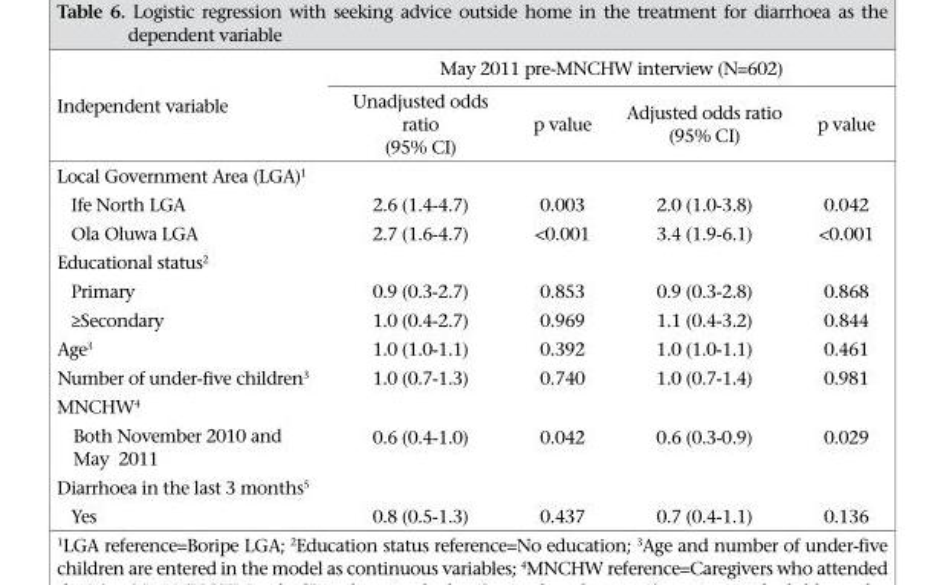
<table><thead><tr><td rowspan="2">Independent variable</td><td colspan="4">May 2011 pre-MNCHW interview (N=602)</td></tr><tr><td>Unadjusted odds ratio (95% CI)</td><td>p value</td><td>Adjusted odds ratio (95% CI)</td><td>p value</td></tr></thead><tbody><tr><td colspan="5">Local Government Area (LGA)<sup>1</sup></td></tr><tr><td>Ife North LGA</td><td>2.6 (1.4-4.7)</td><td>0.003</td><td>2.0 (1.0-3.8)</td><td>0.042</td></tr><tr><td>Ola Oluwa LGA</td><td>2.7 (1.6-4.7)</td><td>&lt;0.001</td><td>3.4 (1.9-6.1)</td><td>&lt;0.001</td></tr><tr><td colspan="5">Educational status<sup>2</sup></td></tr><tr><td>Primary</td><td>0.9 (0.3-2.7)</td><td>0.853</td><td>0.9 (0.3-2.8)</td><td>0.868</td></tr><tr><td>≥Secondary</td><td>1.0 (0.4-2.7)</td><td>0.969</td><td>1.1 (0.4-3.2)</td><td>0.844</td></tr><tr><td>Age<sup>3</sup></td><td>1.0 (1.0-1.1)</td><td>0.392</td><td>1.0 (1.0-1.1)</td><td>0.461</td></tr><tr><td>Number of under-five children<sup>3</sup></td><td>1.0 (0.7-1.3)</td><td>0.740</td><td>1.0 (0.7-1.4)</td><td>0.981</td></tr><tr><td colspan="5">MNCHW<sup>4</sup></td></tr><tr><td>Both November 2010 and May 2011</td><td>0.6 (0.4-1.0)</td><td>0.042</td><td>0.6 (0.3-0.9)</td><td>0.029</td></tr><tr><td colspan="5">Diarrhoea in the last 3 months<sup>5</sup></td></tr><tr><td>Yes</td><td>0.8 (0.5-1.3)</td><td>0.437</td><td>0.7 (0.4-1.1)</td><td>0.136</td></tr></tbody></table>